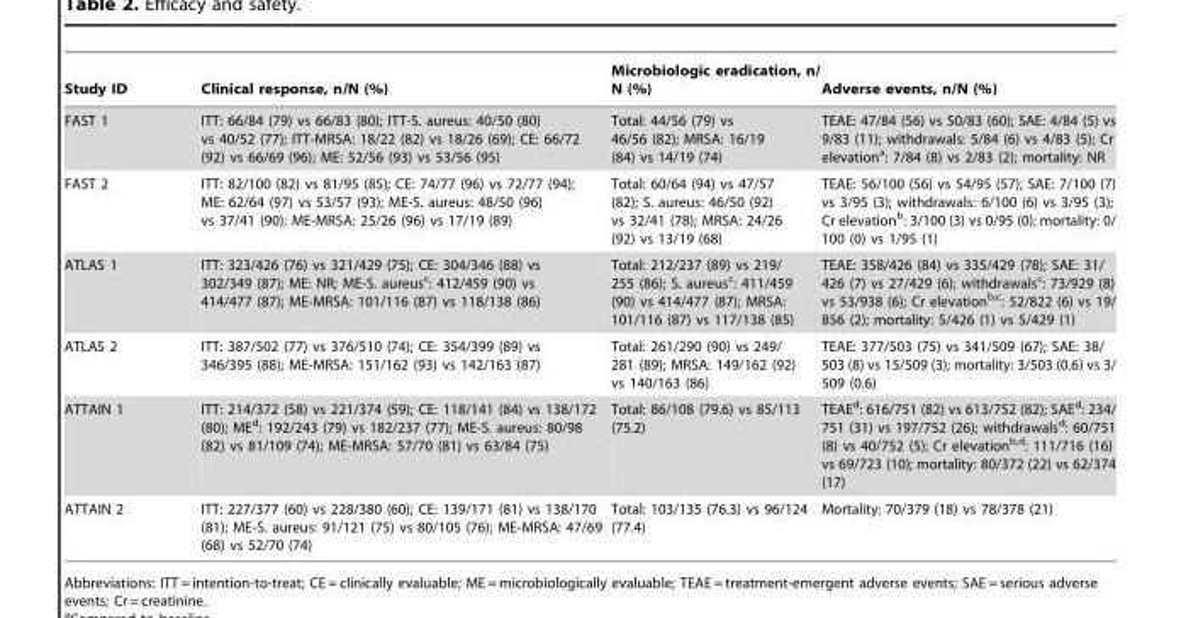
<table><thead><tr><td>Study ID</td><td>Clinical response, n/N (%)</td><td>Microbiologic eradication, n/ N (%)</td><td>Adverse events, n/N (%)</td></tr></thead><tbody><tr><td>FAST 1</td><td>ITT: 66/84 (79) vs 66/83 (80); ITT-S. aureus: 40/50 (80) vs 40/52 (77); ITT-MRSA: 18/22 (82) vs 18/26 (69); CE: 66/72 (92) vs 66/69 (96); ME: 52/56 (93) vs 53/56 (95)</td><td>Total: 44/56 (79) vs 46/56 (82); MRSA: 16/19 (84) vs 14/19 (74)</td><td>TEAE: 47/84 (56) vs 50/83 (60); SAE: 4/84 (5) vs 9/83 (11); withdrawals: 5/84 (6) vs 4/83 (5); Cr elevation<sup>a</sup>: 7/84 (8) vs 2/83 (2); mortality: NR</td></tr><tr><td>FAST 2</td><td>ITT: 82/100 (82) vs 81/95 (85); CE: 74/77 (96) vs 72/77 (94); ME: 62/64 (97) vs 53/57 (93); ME-S. aureus: 48/50 (96) vs 37/41 (90); ME-MRSA: 25/26 (96) vs 17/19 (89)</td><td>Total: 60/64 (94) vs 47/57 (82); S. aureus: 46/50 (92) vs 32/41 (78); MRSA: 24/26 (92) vs 13/19 (68)</td><td>TEAE: 56/100 (56) vs 54/95 (57); SAE: 7/100 (7) vs 3/95 (3); withdrawals: 6/100 (6) vs 3/95 (3); Cr elevation<sup>b</sup>: 3/100 (3) vs 0/95 (0); mortality: 0/ 100 (0) vs 1/95 (1)</td></tr><tr><td>ATLAS 1</td><td>ITT: 323/426 (76) vs 321/429 (75); CE: 304/346 (88) vs 302/349 (87); ME: NR; ME-S. aureus<sup>c</sup>: 412/459 (90) vs 414/477 (87); ME-MRSA: 101/116 (87) vs 118/138 (86)</td><td>Total: 212/237 (89) vs 219/ 255 (86); S. aureus<sup>c</sup>: 411/459 (90) vs 414/477 (87); MRSA: 101/116 (87) vs 117/138 (85)</td><td>TEAE: 358/426 (84) vs 335/429 (78); SAE: 31/ 426 (7) vs 27/429 (6); withdrawals<sup>c</sup>: 73/929 (8) vs 53/938 (6); Cr elevation<sup>b,</sup>c: 52/822 (6) vs 19/ 856 (2); mortality: 5/426 (1) vs 5/429 (1)</td></tr><tr><td>ATLAS 2</td><td>ITT: 387/502 (77) vs 376/510 (74); CE: 354/399 (89) vs 346/395 (88); ME-MRSA: 151/162 (93) vs 142/163 (87)</td><td>Total: 261/290 (90) vs 249/ 281 (89); MRSA: 149/162 (92) vs 140/163 (86)</td><td>TEAE: 377/503 (75) vs 341/509 (67); SAE: 38/ 503 (8) vs 15/509 (3); mortality: 3/503 (0.6) vs 3/ 509 (0.6)</td></tr><tr><td>ATTAIN 1</td><td>ITT: 214/372 (58) vs 221/374 (59); CE: 118/141 (84) vs 138/172 (80); ME<sup>d</sup>: 192/243 (79) vs 182/237 (77); ME-S. aureus: 80/98 (82) vs 81/109 (74); ME-MRSA: 57/70 (81) vs 63/84 (75)</td><td>Total: 86/108 (79.6) vs 85/113 (75.2)</td><td>TEAE<sup>d</sup>: 616/751 (82) vs 613/752 (82); SAE<sup>d</sup>: 234/ 751 (31) vs 197/752 (26); withdrawals<sup>d</sup>: 60/751 (8) vs 40/752 (5); Cr elevation<sup>b,</sup>d: 111/716 (16) vs 69/723 (10); mortality: 80/372 (22) vs 62/374 (17)</td></tr><tr><td>ATTAIN 2</td><td>ITT: 227/377 (60) vs 228/380 (60); CE: 139/171 (81) vs 138/170 (81); ME-S. aureus: 91/121 (75) vs 80/105 (76); ME-MRSA: 47/69 (68) vs 52/70 (74)</td><td>Total: 103/135 (76.3) vs 96/124 (77.4)</td><td>Mortality: 70/379 (18) vs 78/378 (21)</td></tr></tbody></table>